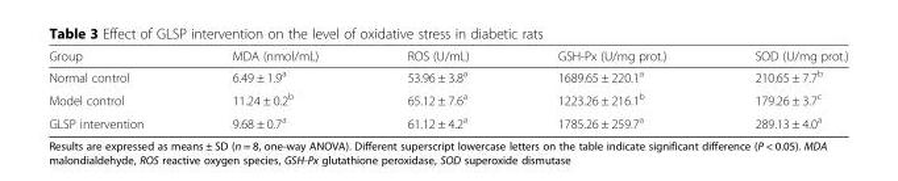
<table><thead><tr><td>Group</td><td>MDA (nmol/mL)</td><td>ROS (U/mL)</td><td>GSH-Px (U/mg prot.)</td><td>SOD (U/mg prot.)</td></tr></thead><tbody><tr><td>Normal control</td><td>6.49 ± 1.9<sup>a</sup></td><td>53.96 ± 3.8<sup>a</sup></td><td>1689.65 ± 220.1<sup>a</sup></td><td>210.65 ± 7.7<sup>b</sup></td></tr><tr><td>Model control</td><td>11.24 ± 0.2<sup>b</sup></td><td>65.12 ± 7.6<sup>a</sup></td><td>1223.26 ± 216.1<sup>b</sup></td><td>179.26 ± 3.7<sup>c</sup></td></tr><tr><td>GLSP intervention</td><td>9.68 ± 0.7<sup>a</sup></td><td>61.12 ± 4.2<sup>a</sup></td><td>1785.26 ± 259.7<sup>a</sup></td><td>289.13 ± 4.0<sup>a</sup></td></tr></tbody></table>